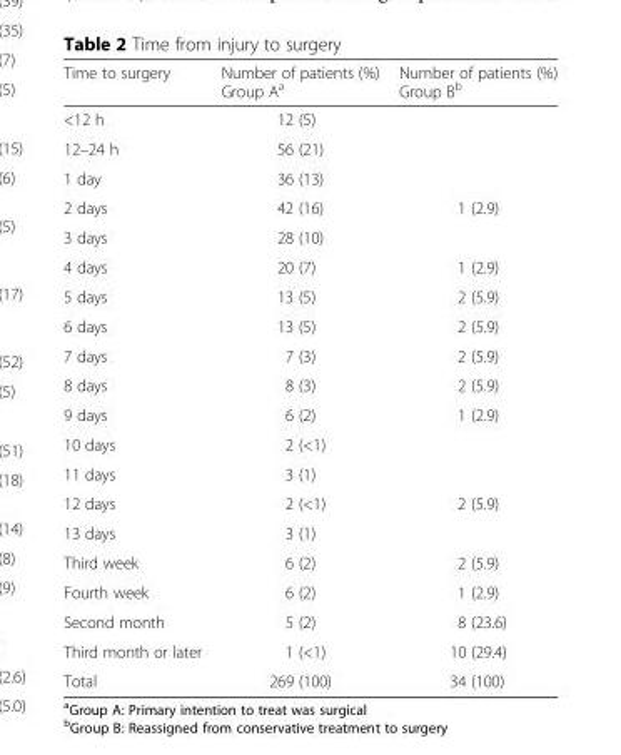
<table><thead><tr><td>Time to surgery</td><td>Number of patients (%) Group A<sup>a</sup></td><td>Number of patients (%) Group B<sup>b</sup></td></tr></thead><tbody><tr><td>&lt;12 h</td><td>12 (5)</td><td></td></tr><tr><td>12–24 h</td><td>56 (21)</td><td></td></tr><tr><td>1 day</td><td>36 (13)</td><td></td></tr><tr><td>2 days</td><td>42 (16)</td><td>1 (2.9)</td></tr><tr><td>3 days</td><td>28 (10)</td><td></td></tr><tr><td>4 days</td><td>20 (7)</td><td>1 (2.9)</td></tr><tr><td>5 days</td><td>13 (5)</td><td>2 (5.9)</td></tr><tr><td>6 days</td><td>13 (5)</td><td>2 (5.9)</td></tr><tr><td>7 days</td><td>7 (3)</td><td>2 (5.9)</td></tr><tr><td>8 days</td><td>8 (3)</td><td>2 (5.9)</td></tr><tr><td>9 days</td><td>6 (2)</td><td>1 (2.9)</td></tr><tr><td>10 days</td><td>2 (&lt;1)</td><td></td></tr><tr><td>11 days</td><td>3 (1)</td><td></td></tr><tr><td>12 days</td><td>2 (&lt;1)</td><td>2 (5.9)</td></tr><tr><td>13 days</td><td>3 (1)</td><td></td></tr><tr><td>Third week</td><td>6 (2)</td><td>2 (5.9)</td></tr><tr><td>Fourth week</td><td>6 (2)</td><td>1 (2.9)</td></tr><tr><td>Second month</td><td>5 (2)</td><td>8 (23.6)</td></tr><tr><td>Third month or later</td><td>1 (&lt;1)</td><td>10 (29.4)</td></tr><tr><td>Total</td><td>269 (100)</td><td>34 (100)</td></tr></tbody></table>